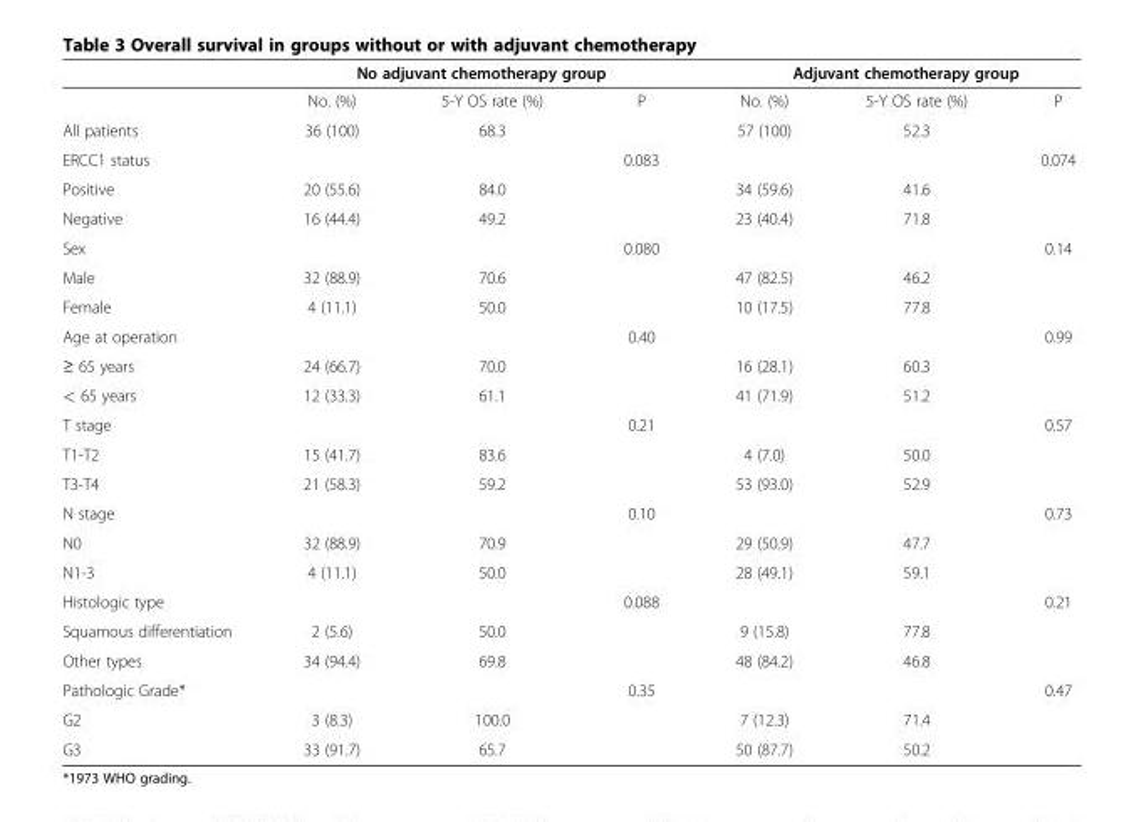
<table><thead><tr><td rowspan="2"></td><td colspan="3">No adjuvant chemotherapy group</td><td colspan="3">Adjuvant chemotherapy group</td></tr><tr><td>No. (%)</td><td>5-Y OS rate (%)</td><td>P</td><td>No. (%)</td><td>5-Y OS rate (%)</td><td>P</td></tr></thead><tbody><tr><td>All patients</td><td>36 (100)</td><td>68.3</td><td></td><td>57 (100)</td><td>52.3</td><td></td></tr><tr><td>ERCC1 status</td><td></td><td></td><td>0.083</td><td></td><td></td><td>0.074</td></tr><tr><td>Positive</td><td>20 (55.6)</td><td>84.0</td><td></td><td>34 (59.6)</td><td>41.6</td><td></td></tr><tr><td>Negative</td><td>16 (44.4)</td><td>49.2</td><td></td><td>23 (40.4)</td><td>71.8</td><td></td></tr><tr><td>Sex</td><td></td><td></td><td>0.080</td><td></td><td></td><td>0.14</td></tr><tr><td>Male</td><td>32 (88.9)</td><td>70.6</td><td></td><td>47 (82.5)</td><td>46.2</td><td></td></tr><tr><td>Female</td><td>4 (11.1)</td><td>50.0</td><td></td><td>10 (17.5)</td><td>77.8</td><td></td></tr><tr><td>Age at operation</td><td></td><td></td><td>0.40</td><td></td><td></td><td>0.99</td></tr><tr><td>≥ 65 years</td><td>24 (66.7)</td><td>70.0</td><td></td><td>16 (28.1)</td><td>60.3</td><td></td></tr><tr><td>&lt; 65 years</td><td>12 (33.3)</td><td>61.1</td><td></td><td>41 (71.9)</td><td>51.2</td><td></td></tr><tr><td>T stage</td><td></td><td></td><td>0.21</td><td></td><td></td><td>0.57</td></tr><tr><td>T1-T2</td><td>15 (41.7)</td><td>83.6</td><td></td><td>4 (7.0)</td><td>50.0</td><td></td></tr><tr><td>T3-T4</td><td>21 (58.3)</td><td>59.2</td><td></td><td>53 (93.0)</td><td>52.9</td><td></td></tr><tr><td>N stage</td><td></td><td></td><td>0.10</td><td></td><td></td><td>0.73</td></tr><tr><td>N0</td><td>32 (88.9)</td><td>70.9</td><td></td><td>29 (50.9)</td><td>47.7</td><td></td></tr><tr><td>N1-3</td><td>4 (11.1)</td><td>50.0</td><td></td><td>28 (49.1)</td><td>59.1</td><td></td></tr><tr><td>Histologic type</td><td></td><td></td><td>0.088</td><td></td><td></td><td>0.21</td></tr><tr><td>Squamous differentiation</td><td>2 (5.6)</td><td>50.0</td><td></td><td>9 (15.8)</td><td>77.8</td><td></td></tr><tr><td>Other types</td><td>34 (94.4)</td><td>69.8</td><td></td><td>48 (84.2)</td><td>46.8</td><td></td></tr><tr><td>Pathologic Grade*</td><td></td><td></td><td>0.35</td><td></td><td></td><td>0.47</td></tr><tr><td>G2</td><td>3 (8.3)</td><td>100.0</td><td></td><td>7 (12.3)</td><td>71.4</td><td></td></tr><tr><td>G3</td><td>33 (91.7)</td><td>65.7</td><td></td><td>50 (87.7)</td><td>50.2</td><td></td></tr></tbody></table>